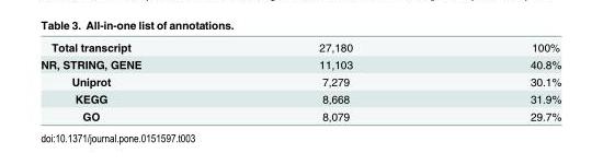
<table><tbody><tr><td>Total transcript</td><td>27,180</td><td>100%</td></tr><tr><td>NR, STRING, GENE</td><td>11,103</td><td>40.8%</td></tr><tr><td>Uniprot</td><td>7,279</td><td>30.1%</td></tr><tr><td>KEGG</td><td>8,668</td><td>31.9%</td></tr><tr><td>GO</td><td>8,079</td><td>29.7%</td></tr></tbody></table>